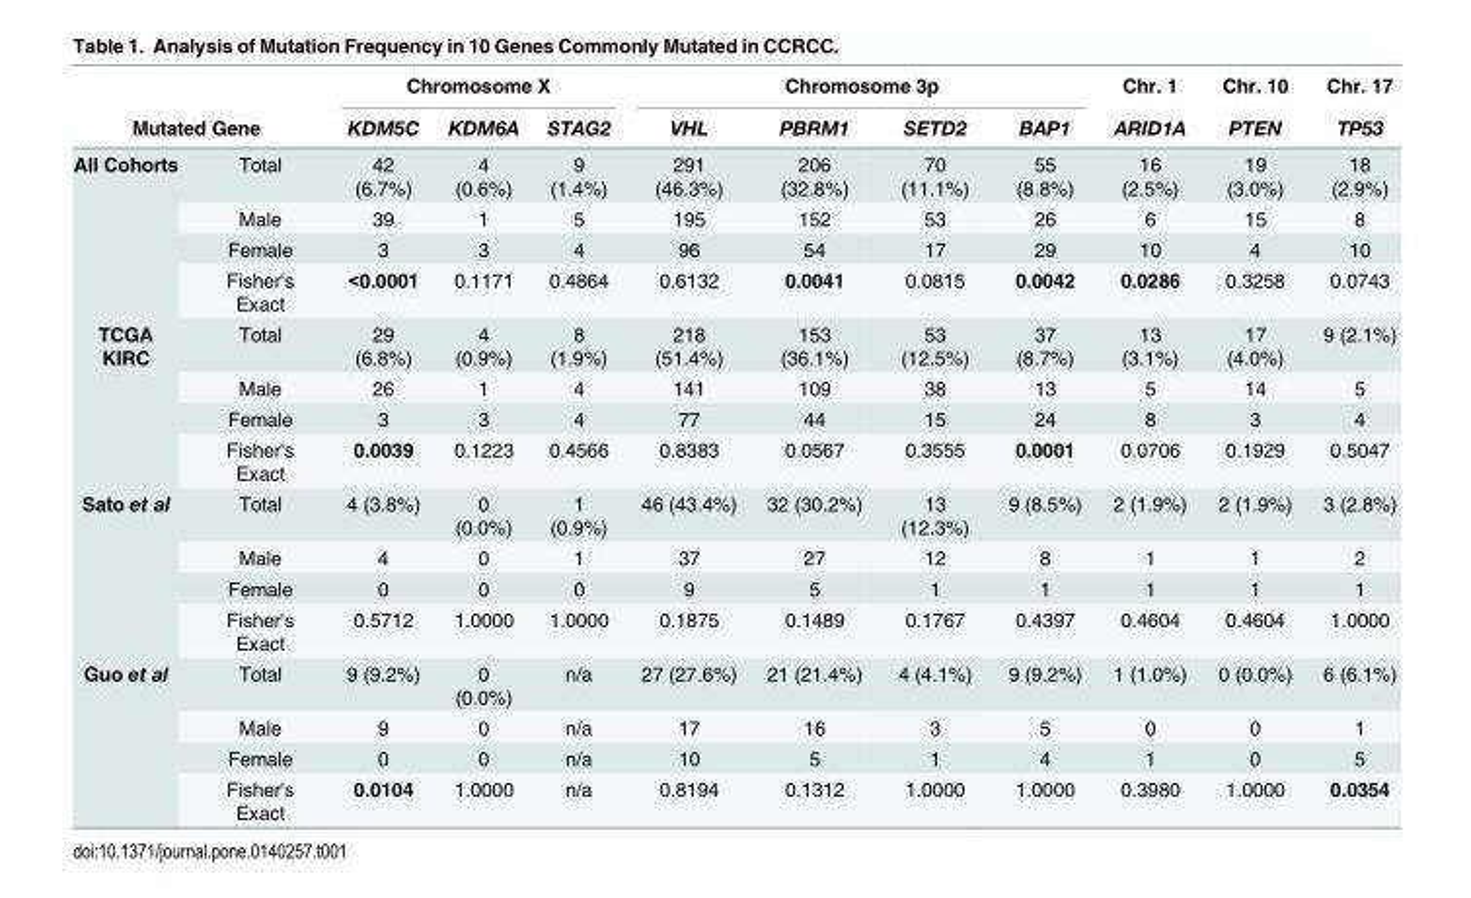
<table><thead><tr><td></td><td></td><td colspan="3">Chromosome X</td><td colspan="4">Chromosome 3p</td><td rowspan="2">Chr. 1 ARID1A</td><td rowspan="2">Chr. 10 PTEN</td><td rowspan="2">Chr. 17 TP53</td></tr><tr><td colspan="2">Mutated Gene</td><td>KDM5C</td><td>KDM6A</td><td>STAG2</td><td>VHL</td><td>PBRM1</td><td>SETD2</td><td>BAP1</td></tr></thead><tbody><tr><td rowspan="4">All Cohorts</td><td>Total</td><td>42 (6.7%)</td><td>4 (0.6%)</td><td>9 (1.4%)</td><td>291 (46.3%)</td><td>206 (32.8%)</td><td>70 (11.1%)</td><td>55 (8.8%)</td><td>16 (2.5%)</td><td>19 (3.0%)</td><td>18 (2.9%)</td></tr><tr><td>Male</td><td>39</td><td>1</td><td>5</td><td>195</td><td>152</td><td>53</td><td>26</td><td>6</td><td>15</td><td>8</td></tr><tr><td>Female</td><td>3</td><td>3</td><td>4</td><td>96</td><td>54</td><td>17</td><td>29</td><td>10</td><td>4</td><td>10</td></tr><tr><td>Fisher&#x27;s Exact</td><td>&lt;0.0001</td><td>0.1171</td><td>0.4864</td><td>0.6132</td><td>0.0041</td><td>0.0815</td><td>0.0042</td><td>0.0286</td><td>0.3258</td><td>0.0743</td></tr><tr><td rowspan="4">TCGA KIRC</td><td>Total</td><td>29 (6.8%)</td><td>4 (0.9%)</td><td>8 (1.9%)</td><td>218 (51.4%)</td><td>153 (36.1%)</td><td>53 (12.5%)</td><td>37 (8.7%)</td><td>13 (3.1%)</td><td>17 (4.0%)</td><td>9 (2.1%)</td></tr><tr><td>Male</td><td>26</td><td>1</td><td>4</td><td>141</td><td>109</td><td>38</td><td>13</td><td>5</td><td>14</td><td>5</td></tr><tr><td>Female</td><td>3</td><td>3</td><td>4</td><td>77</td><td>44</td><td>15</td><td>24</td><td>8</td><td>3</td><td>4</td></tr><tr><td>Fisher&#x27;s Exact</td><td>0.0039</td><td>0.1223</td><td>0.4566</td><td>0.8383</td><td>0.0567</td><td>0.3555</td><td>0.0001</td><td>0.0706</td><td>0.1929</td><td>0.5047</td></tr><tr><td rowspan="4">Sato et al</td><td>Total</td><td>4 (3.8%)</td><td>0 (0.0%)</td><td>1 (0.9%)</td><td>46 (43.4%)</td><td>32 (30.2%)</td><td>13 (12.3%)</td><td>9 (8.5%)</td><td>2 (1.9%)</td><td>2 (1.9%)</td><td>3 (2.8%)</td></tr><tr><td>Male</td><td>4</td><td>0</td><td>1</td><td>37</td><td>27</td><td>12</td><td>8</td><td>1</td><td>1</td><td>2</td></tr><tr><td>Female</td><td>0</td><td>0</td><td>0</td><td>9</td><td>5</td><td>1</td><td>1</td><td>1</td><td>1</td><td>1</td></tr><tr><td>Fisher&#x27;s Exact</td><td>0.5712</td><td>1.0000</td><td>1.0000</td><td>0.1875</td><td>0.1489</td><td>0.1767</td><td>0.4397</td><td>0.4604</td><td>0.4604</td><td>1.0000</td></tr><tr><td rowspan="4">Guo et al</td><td>Total</td><td>9 (9.2%)</td><td>0 (0.0%)</td><td>n/a</td><td>27 (27.6%)</td><td>21 (21.4%)</td><td>4 (4.1%)</td><td>9 (9.2%)</td><td>1 (1.0%)</td><td>0 (0.0%)</td><td>6 (6.1%)</td></tr><tr><td>Male</td><td>9</td><td>0</td><td>n/a</td><td>17</td><td>16</td><td>3</td><td>5</td><td>0</td><td>0</td><td>1</td></tr><tr><td>Female</td><td>0</td><td>0</td><td>n/a</td><td>10</td><td>5</td><td>1</td><td>4</td><td>1</td><td>0</td><td>5</td></tr><tr><td>Fisher&#x27;s Exact</td><td>0.0104</td><td>1.0000</td><td>n/a</td><td>0.8194</td><td>0.1312</td><td>1.0000</td><td>1.0000</td><td>0.3980</td><td>1.0000</td><td>0.0354</td></tr></tbody></table>